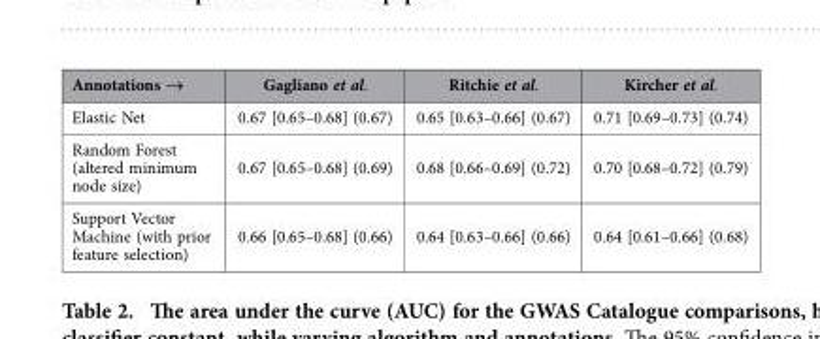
<table><thead><tr><td>Annotations →</td><td>Gagliano et al.</td><td>Ritchie et al.</td><td>Kircher et al.</td></tr></thead><tbody><tr><td>Elastic Net</td><td>0.67 [0.65–0.68] (0.67)</td><td>0.65 [0.63–0.66] (0.67)</td><td>0.71 [0.69–0.73] (0.74)</td></tr><tr><td>Random Forest (altered minimum node size)</td><td>0.67 [0.65–0.68] (0.69)</td><td>0.68 [0.66–0.69] (0.72)</td><td>0.70 [0.68–0.72] (0.79)</td></tr><tr><td>Support Vector Machine (with prior feature selection)</td><td>0.66 [0.65–0.68] (0.66)</td><td>0.64 [0.63–0.66] (0.66)</td><td>0.64 [0.61–0.66] (0.68)</td></tr></tbody></table>